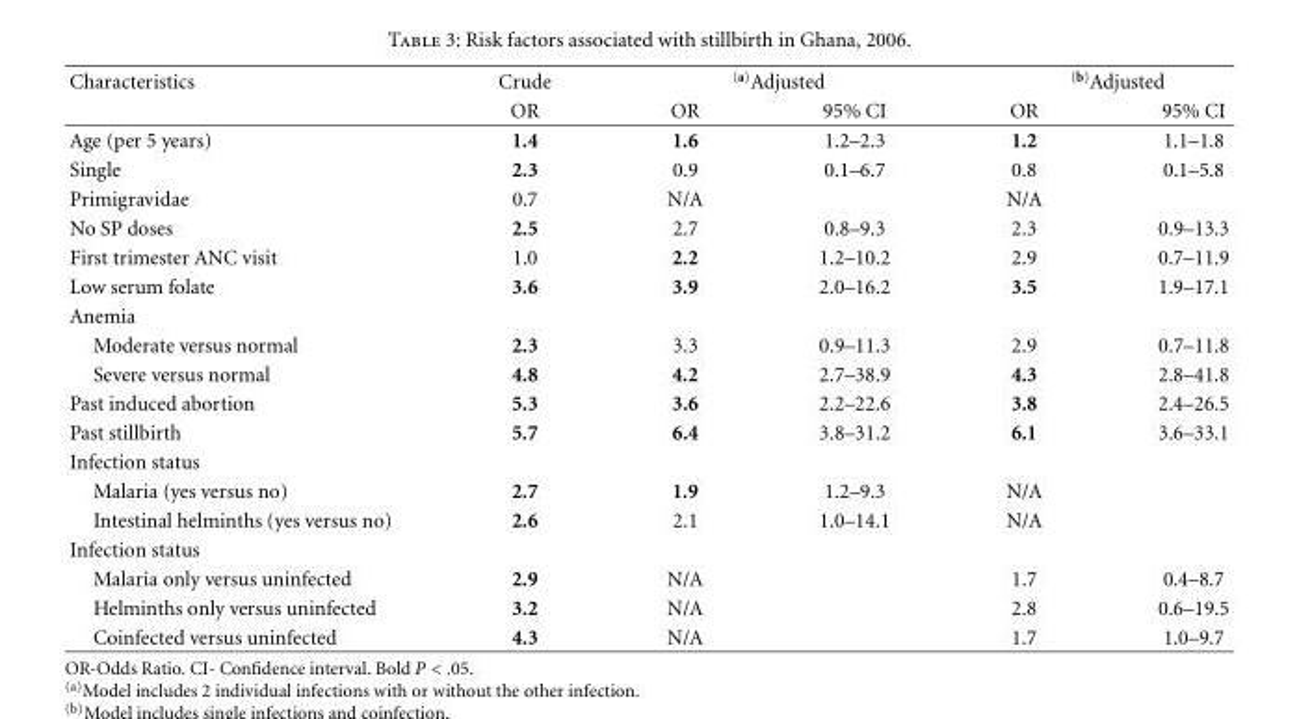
<table><thead><tr><td rowspan="2">Characteristics</td><td rowspan="2">Crude OR</td><td colspan="2"><sup>(a)</sup>Adjusted</td><td colspan="2"><sup>(b)</sup>Adjusted</td></tr><tr><td>OR</td><td>95% CI</td><td>OR</td><td>95% CI</td></tr></thead><tbody><tr><td>Age (per 5 years)</td><td>1.4</td><td>1.6</td><td>1.2–2.3</td><td>1.2</td><td>1.1–1.8</td></tr><tr><td>Single</td><td>2.3</td><td>0.9</td><td>0.1–6.7</td><td>0.8</td><td>0.1–5.8</td></tr><tr><td>Primigravidae</td><td>0.7</td><td>N/A</td><td></td><td>N/A</td><td></td></tr><tr><td>No SP doses</td><td>2.5</td><td>2.7</td><td>0.8–9.3</td><td>2.3</td><td>0.9–13.3</td></tr><tr><td>First trimester ANC visit</td><td>1.0</td><td>2.2</td><td>1.2–10.2</td><td>2.9</td><td>0.7–11.9</td></tr><tr><td>Low serum folate</td><td>3.6</td><td>3.9</td><td>2.0–16.2</td><td>3.5</td><td>1.9–17.1</td></tr><tr><td colspan="6">Anemia</td></tr><tr><td>Moderate versus normal</td><td>2.3</td><td>3.3</td><td>0.9–11.3</td><td>2.9</td><td>0.7–11.8</td></tr><tr><td>Severe versus normal</td><td>4.8</td><td>4.2</td><td>2.7–38.9</td><td>4.3</td><td>2.8–41.8</td></tr><tr><td>Past induced abortion</td><td>5.3</td><td>3.6</td><td>2.2–22.6</td><td>3.8</td><td>2.4–26.5</td></tr><tr><td>Past stillbirth</td><td>5.7</td><td>6.4</td><td>3.8–31.2</td><td>6.1</td><td>3.6–33.1</td></tr><tr><td colspan="6">Infection status</td></tr><tr><td>Malaria (yes versus no)</td><td>2.7</td><td>1.9</td><td>1.2–9.3</td><td>N/A</td><td></td></tr><tr><td>Intestinal helminths (yes versus no)</td><td>2.6</td><td>2.1</td><td>1.0–14.1</td><td>N/A</td><td></td></tr><tr><td colspan="6">Infection status</td></tr><tr><td>Malaria only versus uninfected</td><td>2.9</td><td>N/A</td><td></td><td>1.7</td><td>0.4–8.7</td></tr><tr><td>Helminths only versus uninfected</td><td>3.2</td><td>N/A</td><td></td><td>2.8</td><td>0.6–19.5</td></tr><tr><td>Coinfected versus uninfected</td><td>4.3</td><td>N/A</td><td></td><td>1.7</td><td>1.0–9.7</td></tr></tbody></table>